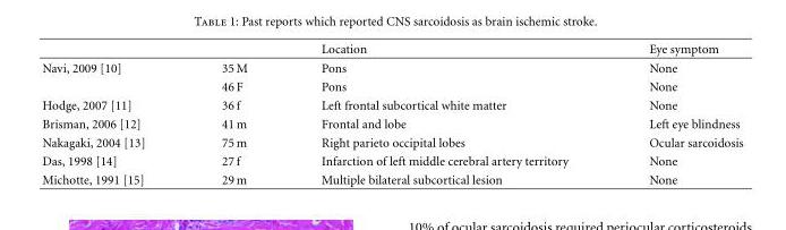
<table><thead><tr><td></td><td></td><td>Location</td><td>Eye symptom</td></tr></thead><tbody><tr><td rowspan="2">Navi, 2009 [10]</td><td>35 M</td><td>Pons</td><td>None</td></tr><tr><td>46 F</td><td>Pons</td><td>None</td></tr><tr><td>Hodge, 2007 [11]</td><td>36 f</td><td>Left frontal subcortical white matter</td><td>None</td></tr><tr><td>Brisman, 2006 [12]</td><td>41 m</td><td>Frontal and lobe</td><td>Left eye blindness</td></tr><tr><td>Nakagaki, 2004 [13]</td><td>75 m</td><td>Right parieto occipital lobes</td><td>Ocular sarcoidosis</td></tr><tr><td>Das, 1998 [14]</td><td>27 f</td><td>Infarction of left middle cerebral artery territory</td><td>None</td></tr><tr><td>Michotte, 1991 [15]</td><td>29 m</td><td>Multiple bilateral subcortical lesion</td><td>None</td></tr></tbody></table>